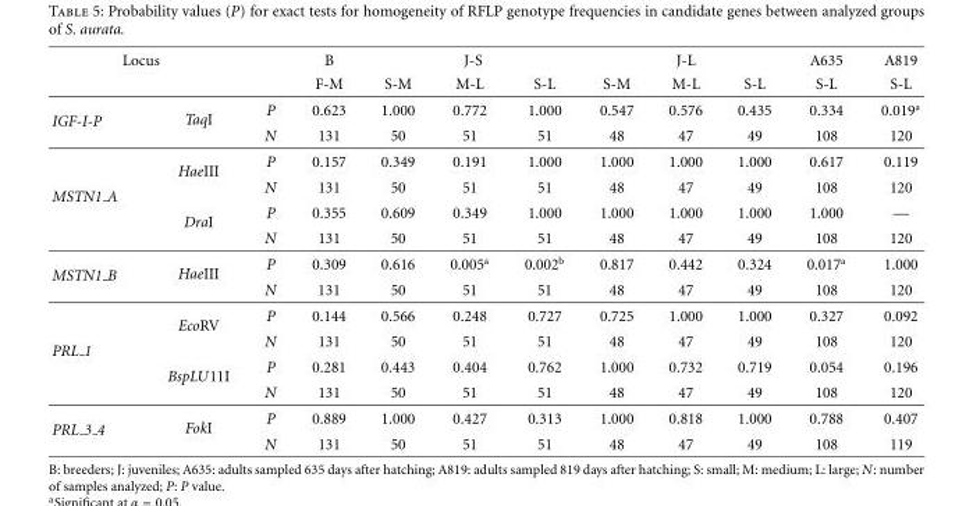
<table><thead><tr><td colspan="2">Locus</td><td rowspan="2"></td><td rowspan="2">B F-M</td><td colspan="3">J-S</td><td colspan="3">J-L</td><td rowspan="2">A635 S-L</td><td rowspan="2">A819 S-L</td></tr><tr><td></td><td></td><td>S-M</td><td>M-L</td><td>S-L</td><td>S-M</td><td>M-L</td><td>S-L</td></tr></thead><tbody><tr><td rowspan="2">IGF-I-P</td><td rowspan="2">TaqI</td><td>P</td><td>0.623</td><td>1.000</td><td>0.772</td><td>1.000</td><td>0.547</td><td>0.576</td><td>0.435</td><td>0.334</td><td>0.019<sup>a</sup></td></tr><tr><td>N</td><td>131</td><td>50</td><td>51</td><td>51</td><td>48</td><td>47</td><td>49</td><td>108</td><td>120</td></tr><tr><td rowspan="4">MSTN1 A</td><td rowspan="2">HaeIII</td><td>P</td><td>0.157</td><td>0.349</td><td>0.191</td><td>1.000</td><td>1.000</td><td>1.000</td><td>1.000</td><td>0.617</td><td>0.119</td></tr><tr><td>N</td><td>131</td><td>50</td><td>51</td><td>51</td><td>48</td><td>47</td><td>49</td><td>108</td><td>120</td></tr><tr><td rowspan="2">DraI</td><td>P</td><td>0.355</td><td>0.609</td><td>0.349</td><td>1.000</td><td>1.000</td><td>1.000</td><td>1.000</td><td>1.000</td><td>—</td></tr><tr><td>N</td><td>131</td><td>50</td><td>51</td><td>51</td><td>48</td><td>47</td><td>49</td><td>108</td><td>120</td></tr><tr><td rowspan="2">MSTN1 B</td><td rowspan="2">HaeIII</td><td>P</td><td>0.309</td><td>0.616</td><td>0.005<sup>a</sup></td><td>0.002<sup>b</sup></td><td>0.817</td><td>0.442</td><td>0.324</td><td>0.017<sup>a</sup></td><td>1.000</td></tr><tr><td>N</td><td>131</td><td>50</td><td>51</td><td>51</td><td>48</td><td>47</td><td>49</td><td>108</td><td>120</td></tr><tr><td rowspan="4">PRL 1</td><td rowspan="2">EcoRV</td><td>P</td><td>0.144</td><td>0.566</td><td>0.248</td><td>0.727</td><td>0.725</td><td>1.000</td><td>1.000</td><td>0.327</td><td>0.092</td></tr><tr><td>N</td><td>131</td><td>50</td><td>51</td><td>51</td><td>48</td><td>47</td><td>49</td><td>108</td><td>120</td></tr><tr><td rowspan="2">BspLU11I</td><td>P</td><td>0.281</td><td>0.443</td><td>0.404</td><td>0.762</td><td>1.000</td><td>0.732</td><td>0.719</td><td>0.054</td><td>0.196</td></tr><tr><td>N</td><td>131</td><td>50</td><td>51</td><td>51</td><td>48</td><td>47</td><td>49</td><td>108</td><td>120</td></tr><tr><td rowspan="2">PRL <sub>3</sub> 4</td><td rowspan="2">FokI</td><td>P</td><td>0.889</td><td>1.000</td><td>0.427</td><td>0.313</td><td>1.000</td><td>0.818</td><td>1.000</td><td>0.788</td><td>0.407</td></tr><tr><td>N</td><td>131</td><td>50</td><td>51</td><td>51</td><td>48</td><td>47</td><td>49</td><td>108</td><td>119</td></tr></tbody></table>